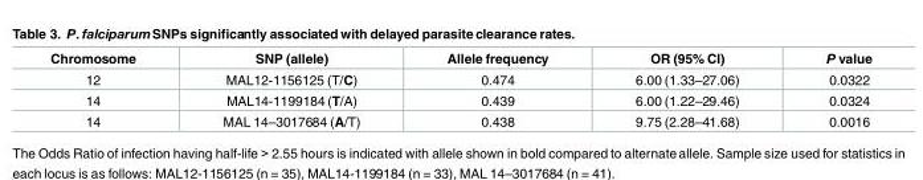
<table><thead><tr><td>Chromosome</td><td>SNP (allele)</td><td>Allele frequency</td><td>OR (95% CI)</td><td>P value</td></tr></thead><tbody><tr><td>12</td><td>MAL12-1156125 (T/C)</td><td>0.474</td><td>6.00 (1.33–27.06)</td><td>0.0322</td></tr><tr><td>14</td><td>MAL14-1199184 (T/A)</td><td>0.439</td><td>6.00 (1.22–29.46)</td><td>0.0324</td></tr><tr><td>14</td><td>MAL 14–3017684 (A/T)</td><td>0.438</td><td>9.75 (2.28–41.68)</td><td>0.0016</td></tr></tbody></table>